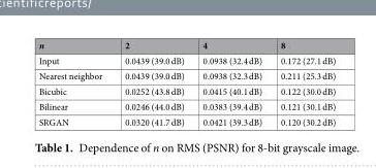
<table><thead><tr><td>n</td><td>2</td><td>4</td><td>8</td></tr></thead><tbody><tr><td>Input</td><td>0.0439 (39.0 dB)</td><td>0.0938 (32.4 dB)</td><td>0.172 (27.1 dB)</td></tr><tr><td>Nearest neighbor</td><td>0.0439 (39.0 dB)</td><td>0.0938 (32.3 dB)</td><td>0.211 (25.3 dB)</td></tr><tr><td>Bicubic</td><td>0.0252 (43.8 dB)</td><td>0.0415 (40.1 dB)</td><td>0.122 (30.0 dB)</td></tr><tr><td>Bilinear</td><td>0.0246 (44.0 dB)</td><td>0.0383 (39.4 dB)</td><td>0.121 (30.1 dB)</td></tr><tr><td>SRGAN</td><td>0.0320 (41.7 dB)</td><td>0.0421 (39.3 dB)</td><td>0.120 (30.2 dB)</td></tr></tbody></table>